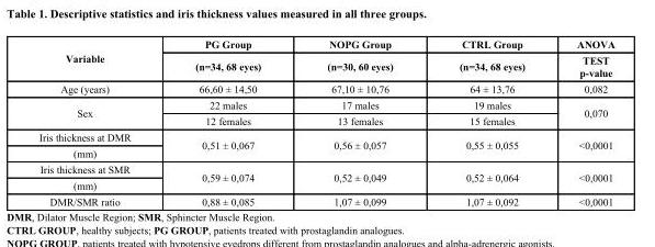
<table><thead><tr><td rowspan="2">Variable</td><td rowspan="2">PG Group (n=34, 68 eyes)</td><td rowspan="2">NOPG Group (n=30, 60 eyes)</td><td rowspan="2">CTRL Group (n=34, 68 eyes)</td><td rowspan="2">ANOVA TEST p-value</td></tr><tr></tr></thead><tbody><tr><td>Age (years)</td><td>66,60 ± 14,50</td><td>67,10 ± 10,76</td><td>64 ± 13,76</td><td>0,082</td></tr><tr><td rowspan="2">Sex</td><td>22 males</td><td>17 males</td><td>19 males</td><td rowspan="2">0,070</td></tr><tr><td>12 females</td><td>13 females</td><td>15 females</td></tr><tr><td>Iris thickness at DMR</td><td rowspan="2">0,51 ± 0,067</td><td rowspan="2">0,56 ± 0,057</td><td rowspan="2">0,55 ± 0,055</td><td rowspan="2">&lt;0,0001</td></tr><tr><td>(mm)</td></tr><tr><td>Iris thickness at SMR</td><td rowspan="2">0,59 ± 0,074</td><td rowspan="2">0,52 ± 0,049</td><td rowspan="2">0,52 ± 0,064</td><td rowspan="2">&lt;0,0001</td></tr><tr><td>(mm)</td></tr><tr><td>DMR/SMR ratio</td><td>0,88 ± 0,085</td><td>1,07 ± 0,099</td><td>1,07 ± 0,092</td><td>&lt;0,0001</td></tr></tbody></table>